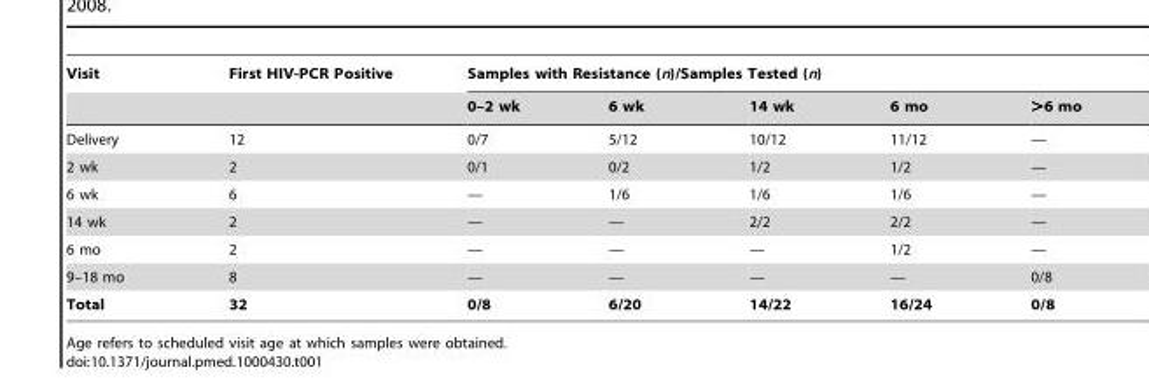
<table><thead><tr><td rowspan="2">Visit</td><td rowspan="2">First HIV-PCR Positive</td><td colspan="5">Samples with Resistance (n)/Samples Tested (n)</td></tr><tr><td>0–2 wk</td><td>6 wk</td><td>14 wk</td><td>6 mo</td><td>&gt;6 mo</td></tr></thead><tbody><tr><td>Delivery</td><td>12</td><td>0/7</td><td>5/12</td><td>10/12</td><td>11/12</td><td>—</td></tr><tr><td>2 wk</td><td>2</td><td>0/1</td><td>0/2</td><td>1/2</td><td>1/2</td><td>—</td></tr><tr><td>6 wk</td><td>6</td><td>—</td><td>1/6</td><td>1/6</td><td>1/6</td><td>—</td></tr><tr><td>14 wk</td><td>2</td><td>—</td><td>—</td><td>2/2</td><td>2/2</td><td>—</td></tr><tr><td>6 mo</td><td>2</td><td>—</td><td>—</td><td>—</td><td>1/2</td><td>—</td></tr><tr><td>9–18 mo</td><td>8</td><td>—</td><td>—</td><td>—</td><td>—</td><td>0/8</td></tr><tr><td>Total</td><td>32</td><td>0/8</td><td>6/20</td><td>14/22</td><td>16/24</td><td>0/8</td></tr></tbody></table>